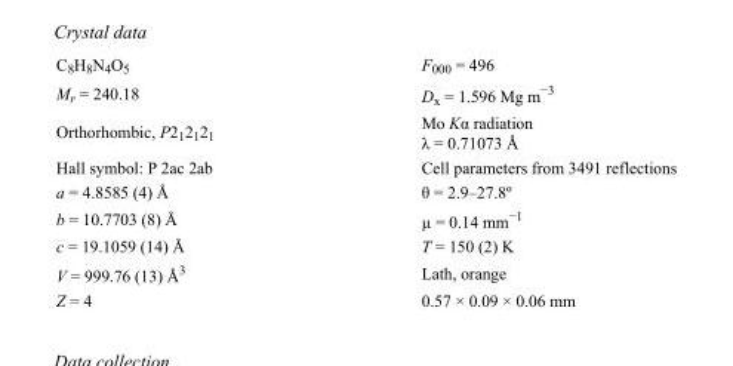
<table><tbody><tr><td>C<sub>8</sub>H<sub>8</sub>N<sub>4</sub>O<sub>5</sub></td><td>F<sub>000</sub> = 496</td></tr><tr><td>M<sub>r</sub> = 240.18</td><td>D<sub>x</sub> = 1.596 Mg m<sup>−3</sup></td></tr><tr><td>Orthorhombic, P2<sub>1</sub>2<sub>1</sub>2<sub>1</sub></td><td>Mo Kα radiation λ = 0.71073 Å</td></tr><tr><td>Hall symbol: P 2ac 2ab</td><td>Cell parameters from 3491 reflections</td></tr><tr><td>a = 4.8585 (4) Å</td><td>θ = 2.9–27.8º</td></tr><tr><td>b = 10.7703 (8) Å</td><td>µ = 0.14 mm<sup>−1</sup></td></tr><tr><td>c = 19.1059 (14) Å</td><td>T = 150 (2) K</td></tr><tr><td>V = 999.76 (13) Å<sup>3</sup></td><td>Lath, orange</td></tr><tr><td>Z = 4</td><td>0.57 × 0.09 × 0.06 mm</td></tr></tbody></table>